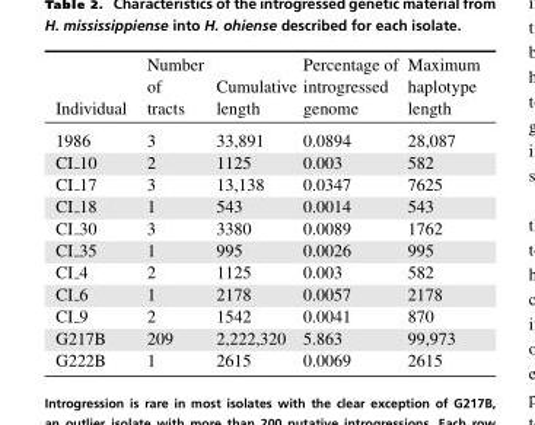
<table><thead><tr><td>Individual</td><td>Number of tracts</td><td>Cumulative length</td><td>Percentage of introgressed genome</td><td>Maximum haplotype length</td></tr></thead><tbody><tr><td>1986</td><td>3</td><td>33,891</td><td>0.0894</td><td>28,087</td></tr><tr><td>CI 10</td><td>2</td><td>1125</td><td>0.003</td><td>582</td></tr><tr><td>CI 17</td><td>3</td><td>13,138</td><td>0.0347</td><td>7625</td></tr><tr><td>CI 18</td><td>1</td><td>543</td><td>0.0014</td><td>543</td></tr><tr><td>CI 30</td><td>3</td><td>3380</td><td>0.0089</td><td>1762</td></tr><tr><td>CI 35</td><td>1</td><td>995</td><td>0.0026</td><td>995</td></tr><tr><td>CI 4</td><td>2</td><td>1125</td><td>0.003</td><td>582</td></tr><tr><td>CI 6</td><td>1</td><td>2178</td><td>0.0057</td><td>2178</td></tr><tr><td>CI 9</td><td>2</td><td>1542</td><td>0.0041</td><td>870</td></tr><tr><td>G217B</td><td>209</td><td>2,222,320</td><td>5.863</td><td>99,973</td></tr><tr><td>G222B</td><td>1</td><td>2615</td><td>0.0069</td><td>2615</td></tr></tbody></table>